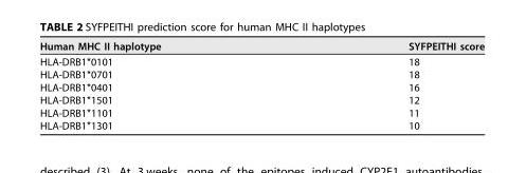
<table><thead><tr><td>Human MHC II haplotype</td><td>SYFPEITHI score</td></tr></thead><tbody><tr><td>HLA-DRB1*0101</td><td>18</td></tr><tr><td>HLA-DRB1*0701</td><td>18</td></tr><tr><td>HLA-DRB1*0401</td><td>16</td></tr><tr><td>HLA-DRB1*1501</td><td>12</td></tr><tr><td>HLA-DRB1*1101</td><td>11</td></tr><tr><td>HLA-DRB1*1301</td><td>10</td></tr></tbody></table>